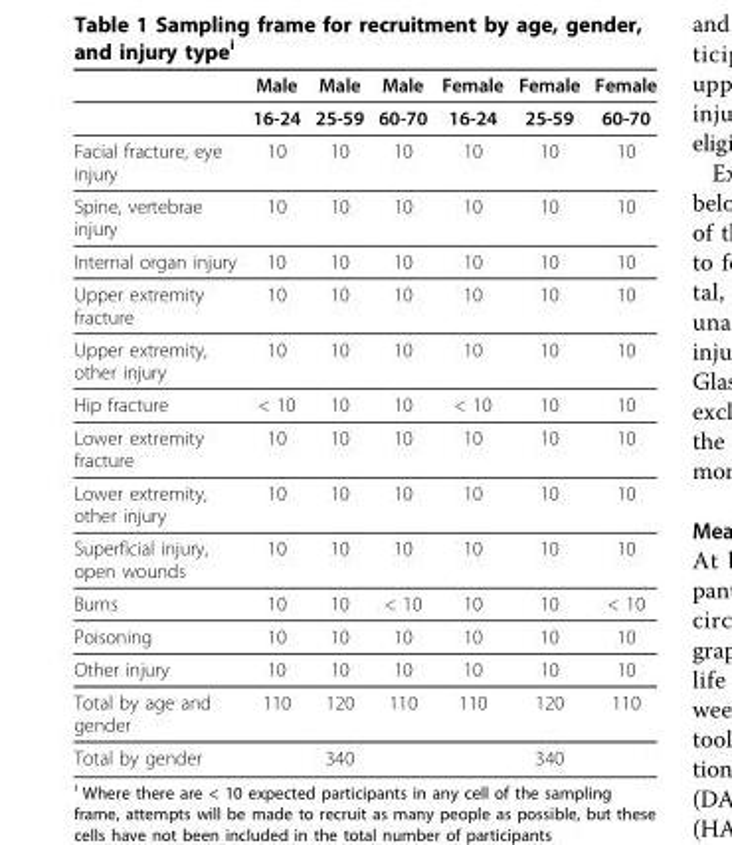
<table><thead><tr><td></td><td>Male</td><td>Male</td><td>Male</td><td>Female</td><td>Female</td><td>Female</td></tr></thead><tbody><tr><td></td><td>16-24</td><td>25-59</td><td>60-70</td><td>16-24</td><td>25-59</td><td>60-70</td></tr><tr><td>Facial fracture, eye injury</td><td>10</td><td>10</td><td>10</td><td>10</td><td>10</td><td>10</td></tr><tr><td>Spine, vertebrae injury</td><td>10</td><td>10</td><td>10</td><td>10</td><td>10</td><td>10</td></tr><tr><td>Internal organ injury</td><td>10</td><td>10</td><td>10</td><td>10</td><td>10</td><td>10</td></tr><tr><td>Upper extremity fracture</td><td>10</td><td>10</td><td>10</td><td>10</td><td>10</td><td>10</td></tr><tr><td>Upper extremity, other injury</td><td>10</td><td>10</td><td>10</td><td>10</td><td>10</td><td>10</td></tr><tr><td>Hip fracture</td><td>&lt; 10</td><td>10</td><td>10</td><td>&lt; 10</td><td>10</td><td>10</td></tr><tr><td>Lower extremity fracture</td><td>10</td><td>10</td><td>10</td><td>10</td><td>10</td><td>10</td></tr><tr><td>Lower extremity, other injury</td><td>10</td><td>10</td><td>10</td><td>10</td><td>10</td><td>10</td></tr><tr><td>Superficial injury, open wounds</td><td>10</td><td>10</td><td>10</td><td>10</td><td>10</td><td>10</td></tr><tr><td>Burns</td><td>10</td><td>10</td><td>&lt; 10</td><td>10</td><td>10</td><td>&lt; 10</td></tr><tr><td>Poisoning</td><td>10</td><td>10</td><td>10</td><td>10</td><td>10</td><td>10</td></tr><tr><td>Other injury</td><td>10</td><td>10</td><td>10</td><td>10</td><td>10</td><td>10</td></tr><tr><td>Total by age and gender</td><td>110</td><td>120</td><td>110</td><td>110</td><td>120</td><td>110</td></tr><tr><td>Total by gender</td><td></td><td>340</td><td></td><td></td><td>340</td><td></td></tr></tbody></table>